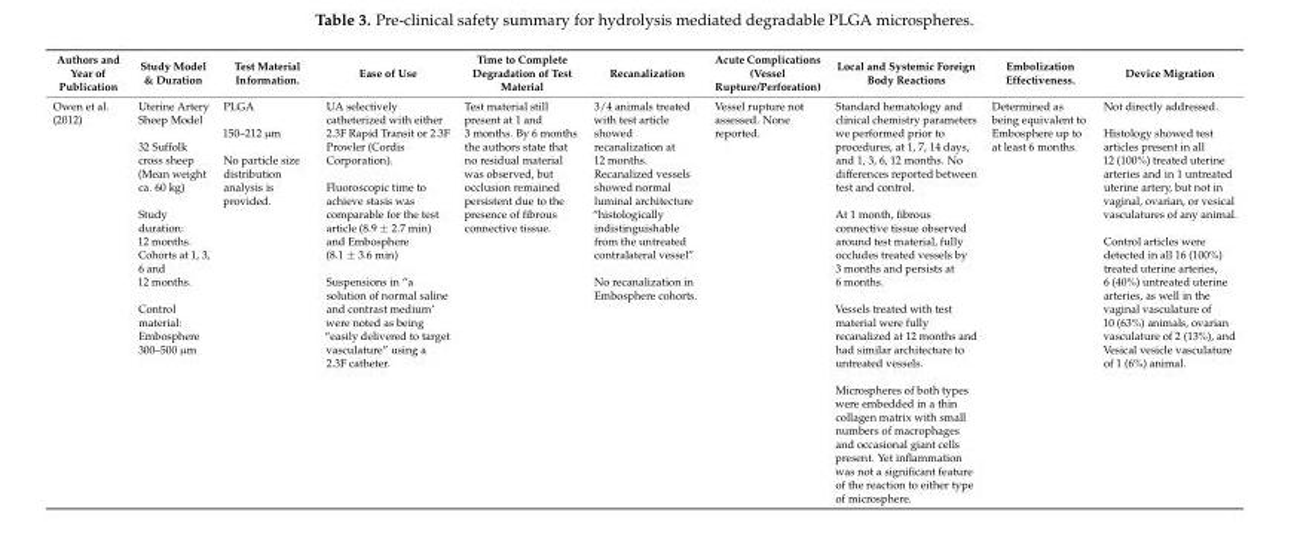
<table><thead><tr><td>Authors and Year of Publication</td><td>Study Model &amp; Duration</td><td>Test Material Information.</td><td>Ease of Use</td><td>Time to Complete Degradation of Test Material</td><td>Recanalization</td><td>Acute Complications (Vessel Rupture/Perforation)</td><td>Local and Systemic Foreign Body Reactions</td><td>Embolization Effectiveness.</td><td>Device Migration</td></tr></thead><tbody><tr><td>Owen et al. (2012)</td><td>Uterine Artery Sheep Model 32 Suffolk cross sheep (Mean weight ca. 60 kg) Study duration: 12 months. Cohorts at 1, 3, 6 and 12 months. Control material: Embosphere 300–500 µm</td><td>PLGA 150–212 µm No particle size distribution analysis is provided.</td><td>UA selectively catheterized with either 2.3F Rapid Transit or 2.3F Prowler (Cordis Corporation). Fluoroscopic time to achieve stasis was comparable for the test article (8.9 ± 2.7 min) and Embosphere (8.1 ± 3.6 min) Suspensions in “a solution of normal saline and contrast medium’ were noted as being “easily delivered to target vasculature” using a 2.3F catheter.</td><td>Test material still present at 1 and 3 months. By 6 months the authors state that no residual material was observed, but occlusion remained persistent due to the presence of fibrous connective tissue.</td><td>3/4 animals treated with test article showed recanalization at 12 months. Recanalized vessels showed normal luminal architecture “histologically indistinguishable from the untreated contralateral vessel” No recanalization in Embosphere cohorts.</td><td>Vessel rupture not assessed. None reported.</td><td>Standard hematology and clinical chemistry parameters we performed prior to procedures, at 1, 7, 14 days, and 1, 3, 6, 12 months. No differences reported between test and control. At 1 month, fibrous connective tissue observed around test material, fully occludes treated vessels by 3 months and persists at 6 months. Vessels treated with test material were fully recanalized at 12 months and had similar architecture to untreated vessels. Microspheres of both types were embedded in a thin collagen matrix with small numbers of macrophages and occasional giant cells present. Yet inflammation was not a significant feature of the reaction to either type of microsphere.</td><td>Determined as being equivalent to Embosphere up to at least 6 months.</td><td>Not directly addressed. Histology showed test articles present in all 12 (100%) treated uterine arteries and in 1 untreated uterine artery, but not in vaginal, ovarian, or vesical vasculatures of any animal. Control articles were detected in all 16 (100%) treated uterine arteries, 6 (40%) untreated uterine arteries, as well in the vaginal vasculature of 10 (63%) animals, ovarian vasculature of 2 (13%), and Vesical vesicle vasculature of 1 (6%) animal.</td></tr></tbody></table>